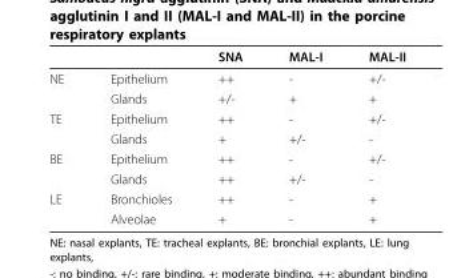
<table><thead><tr><td></td><td></td><td>SNA</td><td>MAL-I</td><td>MAL-II</td></tr></thead><tbody><tr><td rowspan="2">NE</td><td>Epithelium</td><td>++</td><td>-</td><td>+/-</td></tr><tr><td>Glands</td><td>+/-</td><td>+</td><td>+</td></tr><tr><td rowspan="2">TE</td><td>Epithelium</td><td>++</td><td>-</td><td>+/-</td></tr><tr><td>Glands</td><td>+</td><td>+/-</td><td>-</td></tr><tr><td rowspan="2">BE</td><td>Epithelium</td><td>++</td><td>-</td><td>+/-</td></tr><tr><td>Glands</td><td>++</td><td>+/-</td><td>-</td></tr><tr><td rowspan="2">LE</td><td>Bronchioles</td><td>++</td><td>-</td><td>+</td></tr><tr><td>Alveolae</td><td>+</td><td>-</td><td>+</td></tr></tbody></table>